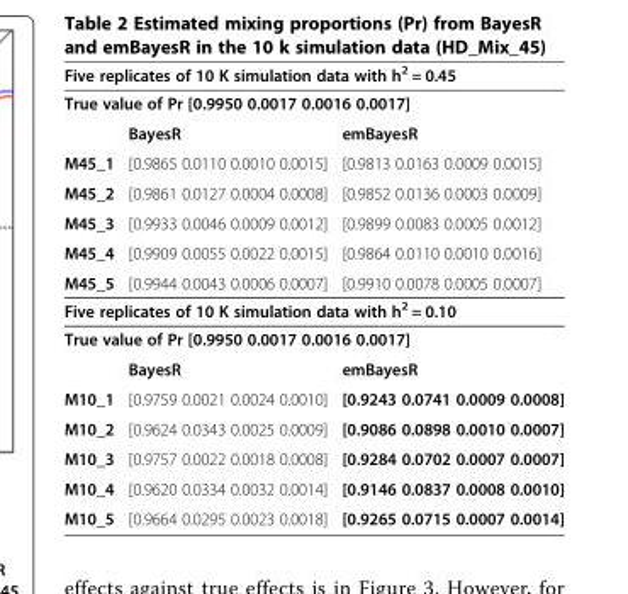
<table><thead><tr><td rowspan="2" colspan="3">Five replicates of 10 K simulation data with h<sup>2</sup> = 0.45 True value of Pr [0.9950 0.0017 0.0016 0.0017]</td></tr><tr></tr><tr><td></td><td>BayesR</td><td>emBayesR</td></tr></thead><tbody><tr><td>M45_1</td><td>[0.9865 0.0110 0.0010 0.0015]</td><td>[0.9813 0.0163 0.0009 0.0015]</td></tr><tr><td>M45_2</td><td>[0.9861 0.0127 0.0004 0.0008]</td><td>[0.9852 0.0136 0.0003 0.0009]</td></tr><tr><td>M45_3</td><td>[0.9933 0.0046 0.0009 0.0012]</td><td>[0.9899 0.0083 0.0005 0.0012]</td></tr><tr><td>M45_4</td><td>[0.9909 0.0055 0.0022 0.0015]</td><td>[0.9864 0.0110 0.0010 0.0016]</td></tr><tr><td>M45_5</td><td>[0.9944 0.0043 0.0006 0.0007]</td><td>[0.9910 0.0078 0.0005 0.0007]</td></tr><tr><td colspan="3">Five replicates of 10 K simulation data with h<sup>2</sup> = 0.10</td></tr><tr><td colspan="3">True value of Pr [0.9950 0.0017 0.0016 0.0017]</td></tr><tr><td></td><td>BayesR</td><td>emBayesR</td></tr><tr><td>M10_1</td><td>[0.9759 0.0021 0.0024 0.0010]</td><td>[0.9243 0.0741 0.0009 0.0008]</td></tr><tr><td>M10_2</td><td>[0.9624 0.0343 0.0025 0.0009]</td><td>[0.9086 0.0898 0.0010 0.0007]</td></tr><tr><td>M10_3</td><td>[0.9757 0.0022 0.0018 0.0008]</td><td>[0.9284 0.0702 0.0007 0.0007]</td></tr><tr><td>M10_4</td><td>[0.9620 0.0334 0.0032 0.0014]</td><td>[0.9146 0.0837 0.0008 0.0010]</td></tr><tr><td>M10_5</td><td>[0.9664 0.0295 0.0023 0.0018]</td><td>[0.9265 0.0715 0.0007 0.0014]</td></tr></tbody></table>